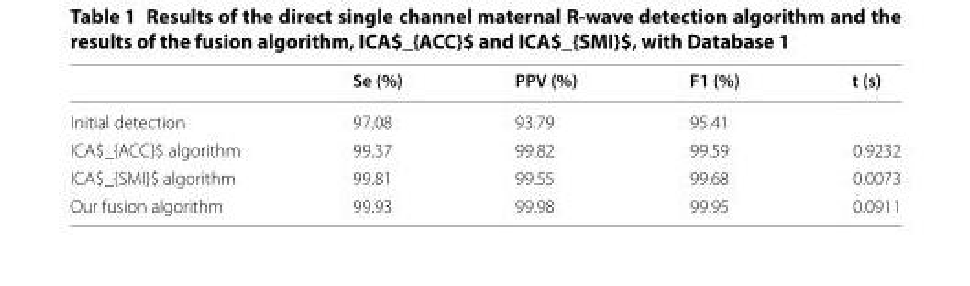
<table><thead><tr><td></td><td>Se (%)</td><td>PPV (%)</td><td>F1 (%)</td><td>t (s)</td></tr></thead><tbody><tr><td>Initial detection</td><td>97.08</td><td>93.79</td><td>95.41</td><td></td></tr><tr><td>ICA$_{ACC}$ algorithm</td><td>99.37</td><td>99.82</td><td>99.59</td><td>0.9232</td></tr><tr><td>ICA$_{SMI}$ algorithm</td><td>99.81</td><td>99.55</td><td>99.68</td><td>0.0073</td></tr><tr><td>Our fusion algorithm</td><td>99.93</td><td>99.98</td><td>99.95</td><td>0.0911</td></tr></tbody></table>